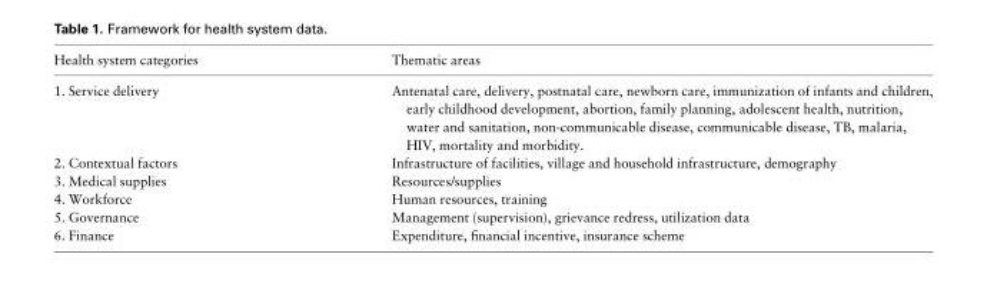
<table><thead><tr><td>Health system categories</td><td>Thematic areas</td></tr></thead><tbody><tr><td>1. Service delivery</td><td>Antenatal care, delivery, postnatal care, newborn care, immunization of infants and children, early childhood development, abortion, family planning, adolescent health, nutrition, water and sanitation, non-communicable disease, communicable disease, TB, malaria, HIV, mortality and morbidity.</td></tr><tr><td>2. Contextual factors</td><td>Infrastructure of facilities, village and household infrastructure, demography</td></tr><tr><td>3. Medical supplies</td><td>Resources/supplies</td></tr><tr><td>4. Workforce</td><td>Human resources, training</td></tr><tr><td>5. Governance</td><td>Management (supervision), grievance redress, utilization data</td></tr><tr><td>6. Finance</td><td>Expenditure, financial incentive, insurance scheme</td></tr></tbody></table>